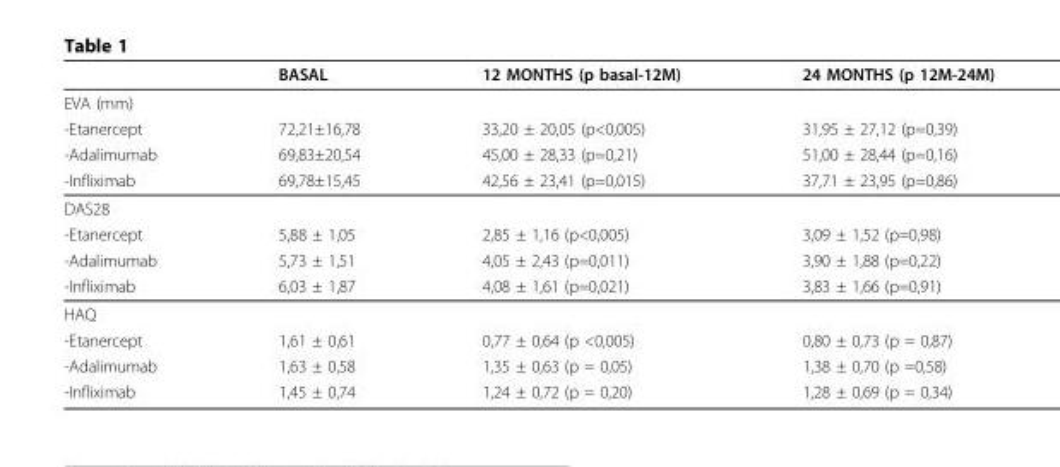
<table><thead><tr><td></td><td>BASAL</td><td>12 MONTHS (p basal-12M)</td><td>24 MONTHS (p 12M-24M)</td></tr></thead><tbody><tr><td colspan="4">EVA (mm)</td></tr><tr><td>-Etanercept</td><td>72,21±16,78</td><td>33,20 ± 20,05 (p&lt;0,005)</td><td>31,95 ± 27,12 (p=0,39)</td></tr><tr><td>-Adalimumab</td><td>69,83±20,54</td><td>45,00 ± 28,33 (p=0,21)</td><td>51,00 ± 28,44 (p=0,16)</td></tr><tr><td>-Infliximab</td><td>69,78±15,45</td><td>42,56 ± 23,41 (p=0,015)</td><td>37,71 ± 23,95 (p=0,86)</td></tr><tr><td colspan="4">DAS28</td></tr><tr><td>-Etanercept</td><td>5,88 ± 1,05</td><td>2,85 ± 1,16 (p&lt;0,005)</td><td>3,09 ± 1,52 (p=0,98)</td></tr><tr><td>-Adalimumab</td><td>5,73 ± 1,51</td><td>4,05 ± 2,43 (p=0,011)</td><td>3,90 ± 1,88 (p=0,22)</td></tr><tr><td>-Infliximab</td><td>6,03 ± 1,87</td><td>4,08 ± 1,61 (p=0,021)</td><td>3,83 ± 1,66 (p=0,91)</td></tr><tr><td colspan="4">HAQ</td></tr><tr><td>-Etanercept</td><td>1,61 ± 0,61</td><td>0,77 ± 0,64 (p &lt;0,005)</td><td>0,80 ± 0,73 (p = 0,87)</td></tr><tr><td>-Adalimumab</td><td>1,63 ± 0,58</td><td>1,35 ± 0,63 (p = 0,05)</td><td>1,38 ± 0,70 (p =0,58)</td></tr><tr><td>-Infliximab</td><td>1,45 ± 0,74</td><td>1,24 ± 0,72 (p = 0,20)</td><td>1,28 ± 0,69 (p = 0,34)</td></tr></tbody></table>